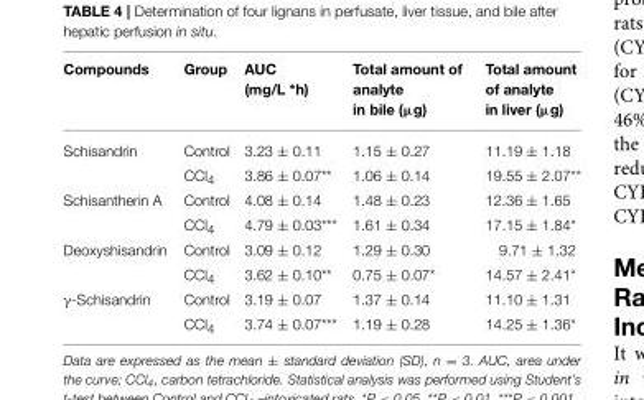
<table><thead><tr><td>Compounds</td><td>Group</td><td>AUC (mg/L *h)</td><td>Total amount of analyte in bile (µg)</td><td>Total amount of analyte in liver (µg)</td></tr></thead><tbody><tr><td rowspan="2">Schisandrin</td><td>Control</td><td>3.23 ± 0.11</td><td>1.15 ± 0.27</td><td>11.19 ± 1.18</td></tr><tr><td>CCl<sub>4</sub></td><td>3.86 ± 0.07**</td><td>1.06 ± 0.14</td><td>19.55 ± 2.07**</td></tr><tr><td rowspan="2">Schisantherin A</td><td>Control</td><td>4.08 ± 0.14</td><td>1.48 ± 0.23</td><td>12.36 ± 1.65</td></tr><tr><td>CCl<sub>4</sub></td><td>4.79 ± 0.03***</td><td>1.61 ± 0.34</td><td>17.15 ± 1.84*</td></tr><tr><td rowspan="2">Deoxyshisandrin</td><td>Control</td><td>3.09 ± 0.12</td><td>1.29 ± 0.30</td><td>9.71 ± 1.32</td></tr><tr><td>CCl<sub>4</sub></td><td>3.62 ± 0.10**</td><td>0.75 ± 0.07*</td><td>14.57 ± 2.41*</td></tr><tr><td rowspan="2">γ-Schisandrin</td><td>Control</td><td>3.19 ± 0.07</td><td>1.37 ± 0.14</td><td>11.10 ± 1.31</td></tr><tr><td>CCl<sub>4</sub></td><td>3.74 ± 0.07***</td><td>1.19 ± 0.28</td><td>14.25 ± 1.36*</td></tr></tbody></table>